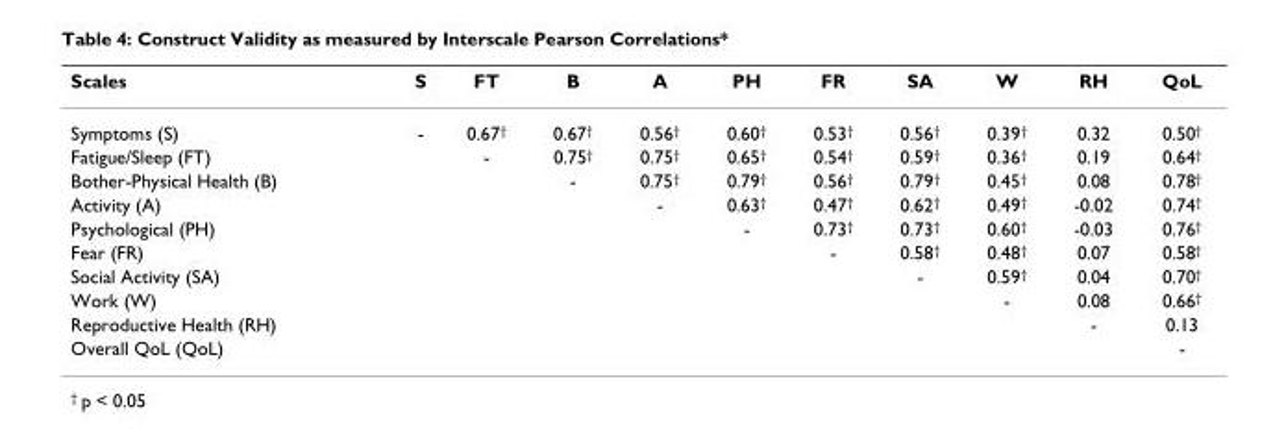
<table><thead><tr><td>Scales</td><td>S</td><td>FT</td><td>B</td><td>A</td><td>PH</td><td>FR</td><td>SA</td><td>W</td><td>RH</td><td>QoL</td></tr></thead><tbody><tr><td>Symptoms (S)</td><td>-</td><td>0.67<sup>†</sup></td><td>0.67<sup>†</sup></td><td>0.56<sup>†</sup></td><td>0.60<sup>†</sup></td><td>0.53<sup>†</sup></td><td>0.56<sup>†</sup></td><td>0.39<sup>†</sup></td><td>0.32</td><td>0.50<sup>†</sup></td></tr><tr><td>Fatigue/Sleep (FT)</td><td></td><td>-</td><td>0.75<sup>†</sup></td><td>0.75<sup>†</sup></td><td>0.65<sup>†</sup></td><td>0.54<sup>†</sup></td><td>0.59<sup>†</sup></td><td>0.36<sup>†</sup></td><td>0.19</td><td>0.64<sup>†</sup></td></tr><tr><td>Bother-Physical Health (B)</td><td></td><td></td><td>-</td><td>0.75<sup>†</sup></td><td>0.79<sup>†</sup></td><td>0.56<sup>†</sup></td><td>0.79<sup>†</sup></td><td>0.45<sup>†</sup></td><td>0.08</td><td>0.78<sup>†</sup></td></tr><tr><td>Activity (A)</td><td></td><td></td><td></td><td>-</td><td>0.63<sup>†</sup></td><td>0.47<sup>†</sup></td><td>0.62<sup>†</sup></td><td>0.49<sup>†</sup></td><td>-0.02</td><td>0.74<sup>†</sup></td></tr><tr><td>Psychological (PH)</td><td></td><td></td><td></td><td></td><td>-</td><td>0.73<sup>†</sup></td><td>0.73<sup>†</sup></td><td>0.60<sup>†</sup></td><td>-0.03</td><td>0.76<sup>†</sup></td></tr><tr><td>Fear (FR)</td><td></td><td></td><td></td><td></td><td></td><td>-</td><td>0.58<sup>†</sup></td><td>0.48<sup>†</sup></td><td>0.07</td><td>0.58<sup>†</sup></td></tr><tr><td>Social Activity (SA)</td><td></td><td></td><td></td><td></td><td></td><td></td><td>-</td><td>0.59<sup>†</sup></td><td>0.04</td><td>0.70<sup>†</sup></td></tr><tr><td>Work (W)</td><td></td><td></td><td></td><td></td><td></td><td></td><td></td><td>-</td><td>0.08</td><td>0.66<sup>†</sup></td></tr><tr><td>Reproductive Health (RH)</td><td></td><td></td><td></td><td></td><td></td><td></td><td></td><td></td><td>-</td><td>0.13</td></tr><tr><td>Overall QoL (QoL)</td><td></td><td></td><td></td><td></td><td></td><td></td><td></td><td></td><td></td><td>-</td></tr></tbody></table>